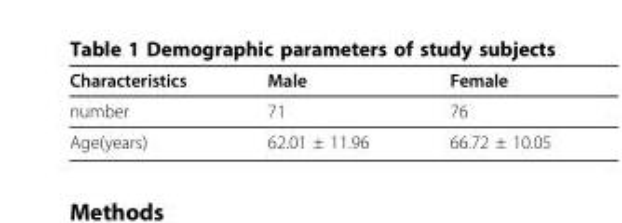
<table><thead><tr><td>Characteristics</td><td>Male</td><td>Female</td></tr></thead><tbody><tr><td>number</td><td>71</td><td>76</td></tr><tr><td>Age(years)</td><td>62.01 ± 11.96</td><td>66.72 ± 10.05</td></tr></tbody></table>